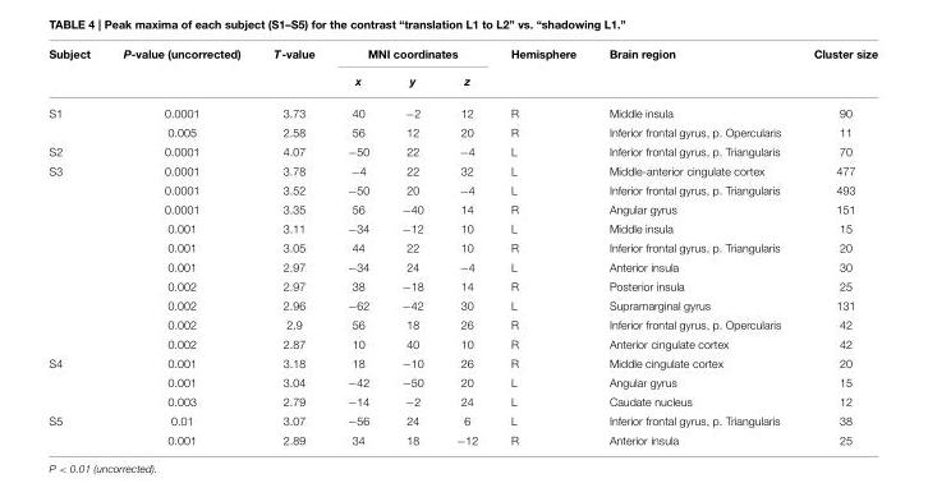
<table><thead><tr><td rowspan="2">Subject</td><td rowspan="2">P-value (uncorrected)</td><td rowspan="2">T-value</td><td colspan="3">MNI coordinates</td><td rowspan="2">Hemisphere</td><td rowspan="2">Brain region</td><td rowspan="2">Cluster size</td></tr><tr><td>x</td><td>y</td><td>z</td></tr></thead><tbody><tr><td rowspan="2">S1</td><td>0.0001</td><td>3.73</td><td>40</td><td>−2</td><td>12</td><td>R</td><td>Middle insula</td><td>90</td></tr><tr><td>0.005</td><td>2.58</td><td>56</td><td>12</td><td>20</td><td>R</td><td>Inferior frontal gyrus, p. Opercularis</td><td>11</td></tr><tr><td>S2</td><td>0.0001</td><td>4.07</td><td>−50</td><td>22</td><td>−4</td><td>L</td><td>Inferior frontal gyrus, p. Triangularis</td><td>70</td></tr><tr><td rowspan="10">S3</td><td>0.0001</td><td>3.78</td><td>−4</td><td>22</td><td>32</td><td>L</td><td>Middle-anterior cingulate cortex</td><td>477</td></tr><tr><td>0.0001</td><td>3.52</td><td>−50</td><td>20</td><td>−4</td><td>L</td><td>Inferior frontal gyrus, p. Triangularis</td><td>493</td></tr><tr><td>0.0001</td><td>3.35</td><td>56</td><td>−40</td><td>14</td><td>R</td><td>Angular gyrus</td><td>151</td></tr><tr><td>0.001</td><td>3.11</td><td>−34</td><td>−12</td><td>10</td><td>L</td><td>Middle insula</td><td>15</td></tr><tr><td>0.001</td><td>3.05</td><td>44</td><td>22</td><td>10</td><td>R</td><td>Inferior frontal gyrus, p. Triangularis</td><td>20</td></tr><tr><td>0.001</td><td>2.97</td><td>−34</td><td>24</td><td>−4</td><td>L</td><td>Anterior insula</td><td>30</td></tr><tr><td>0.002</td><td>2.97</td><td>38</td><td>−18</td><td>14</td><td>R</td><td>Posterior insula</td><td>25</td></tr><tr><td>0.002</td><td>2.96</td><td>−62</td><td>−42</td><td>30</td><td>L</td><td>Supramarginal gyrus</td><td>131</td></tr><tr><td>0.002</td><td>2.9</td><td>56</td><td>18</td><td>26</td><td>R</td><td>Inferior frontal gyrus, p. Opercularis</td><td>42</td></tr><tr><td>0.002</td><td>2.87</td><td>10</td><td>40</td><td>10</td><td>R</td><td>Anterior cingulate cortex</td><td>42</td></tr><tr><td rowspan="3">S4</td><td>0.001</td><td>3.18</td><td>18</td><td>−10</td><td>26</td><td>R</td><td>Middle cingulate cortex</td><td>20</td></tr><tr><td>0.001</td><td>3.04</td><td>−42</td><td>−50</td><td>20</td><td>L</td><td>Angular gyrus</td><td>15</td></tr><tr><td>0.003</td><td>2.79</td><td>−14</td><td>−2</td><td>24</td><td>L</td><td>Caudate nucleus</td><td>12</td></tr><tr><td rowspan="2">S5</td><td>0.01</td><td>3.07</td><td>−56</td><td>24</td><td>6</td><td>L</td><td>Inferior frontal gyrus, p. Triangularis</td><td>38</td></tr><tr><td>0.001</td><td>2.89</td><td>34</td><td>18</td><td>−12</td><td>R</td><td>Anterior insula</td><td>25</td></tr></tbody></table>